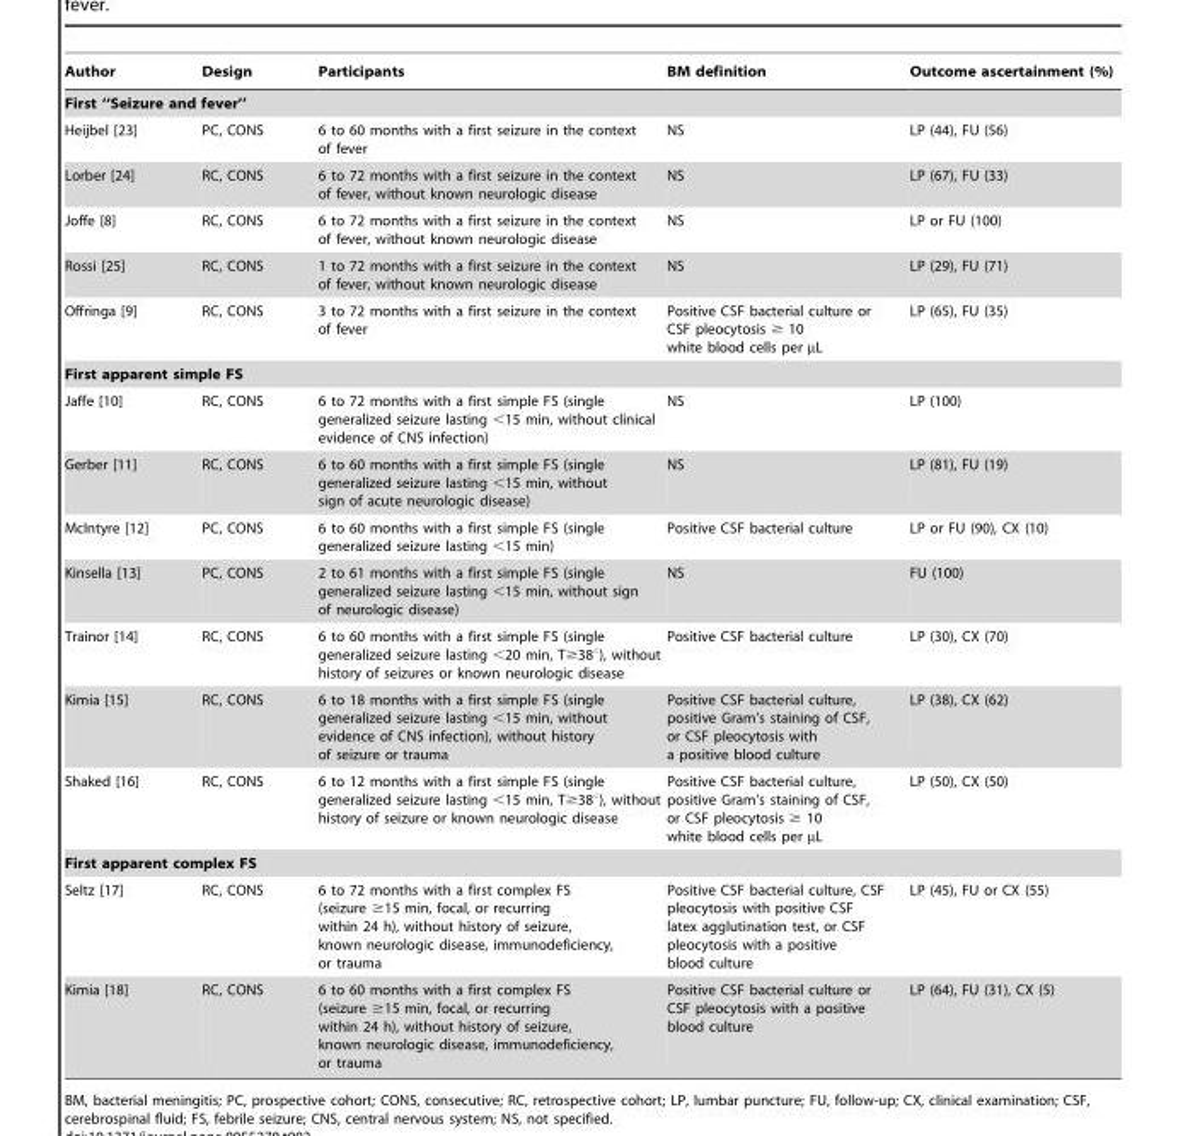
<table><thead><tr><td>Author</td><td>Design</td><td>Participants</td><td>BM definition</td><td>Outcome ascertainment (%)</td></tr></thead><tbody><tr><td colspan="5">First ‘‘Seizure and fever’’</td></tr><tr><td>Heijbel [23]</td><td>PC, CONS</td><td>6 to 60 months with a first seizure in the context of fever</td><td>NS</td><td>LP (44), FU (56)</td></tr><tr><td>Lorber [24]</td><td>RC, CONS</td><td>6 to 72 months with a first seizure in the context of fever, without known neurologic disease</td><td>NS</td><td>LP (67), FU (33)</td></tr><tr><td>Joffe [8]</td><td>RC, CONS</td><td>6 to 72 months with a first seizure in the context of fever, without known neurologic disease</td><td>NS</td><td>LP or FU (100)</td></tr><tr><td>Rossi [25]</td><td>RC, CONS</td><td>1 to 72 months with a first seizure in the context of fever, without known neurologic disease</td><td>NS</td><td>LP (29), FU (71)</td></tr><tr><td>Offringa [9]</td><td>RC, CONS</td><td>3 to 72 months with a first seizure in the context of fever</td><td>Positive CSF bacterial culture or CSF pleocytosis ≥ 10 white blood cells per µL</td><td>LP (65), FU (35)</td></tr><tr><td colspan="5">First apparent simple FS</td></tr><tr><td>Jaffe [10]</td><td>RC, CONS</td><td>6 to 72 months with a first simple FS (single generalized seizure lasting &lt;15 min, without clinical evidence of CNS infection)</td><td>NS</td><td>LP (100)</td></tr><tr><td>Gerber [11]</td><td>RC, CONS</td><td>6 to 60 months with a first simple FS (single generalized seizure lasting &lt;15 min, without sign of acute neurologic disease)</td><td>NS</td><td>LP (81), FU (19)</td></tr><tr><td>McIntyre [12]</td><td>PC, CONS</td><td>6 to 60 months with a first simple FS (single generalized seizure lasting &lt;15 min)</td><td>Positive CSF bacterial culture</td><td>LP or FU (90), CX (10)</td></tr><tr><td>Kinsella [13]</td><td>PC, CONS</td><td>2 to 61 months with a first simple FS (single generalized seizure lasting &lt;15 min, without sign of neurologic disease)</td><td>NS</td><td>FU (100)</td></tr><tr><td>Trainor [14]</td><td>RC, CONS</td><td>6 to 60 months with a first simple FS (single generalized seizure lasting &lt;20 min, T≥38°), without history of seizures or known neurologic disease</td><td>Positive CSF bacterial culture</td><td>LP (30), CX (70)</td></tr><tr><td>Kimia [15]</td><td>RC, CONS</td><td>6 to 18 months with a first simple FS (single generalized seizure lasting &lt;15 min, without evidence of CNS infection), without history of seizure or trauma</td><td>Positive CSF bacterial culture, positive Gram’s staining of CSF, or CSF pleocytosis with a positive blood culture</td><td>LP (38), CX (62)</td></tr><tr><td>Shaked [16]</td><td>RC, CONS</td><td>6 to 12 months with a first simple FS (single generalized seizure lasting &lt;15 min, T≥38°), without history of seizure or known neurologic disease</td><td>Positive CSF bacterial culture, positive Gram’s staining of CSF, or CSF pleocytosis ≥ 10 white blood cells per µL</td><td>LP (50), CX (50)</td></tr><tr><td colspan="5">First apparent complex FS</td></tr><tr><td>Seltz [17]</td><td>RC, CONS</td><td>6 to 72 months with a first complex FS (seizure ≥15 min, focal, or recurring within 24 h), without history of seizure, known neurologic disease, immunodeficiency, or trauma</td><td>Positive CSF bacterial culture, CSF pleocytosis with positive CSF latex agglutination test, or CSF pleocytosis with a positive blood culture</td><td>LP (45), FU or CX (55)</td></tr><tr><td>Kimia [18]</td><td>RC, CONS</td><td>6 to 60 months with a first complex FS (seizure ≥15 min, focal, or recurring within 24 h), without history of seizure, known neurologic disease, immunodeficiency, or trauma</td><td>Positive CSF bacterial culture or CSF pleocytosis with a positive blood culture</td><td>LP (64), FU (31), CX (5)</td></tr></tbody></table>